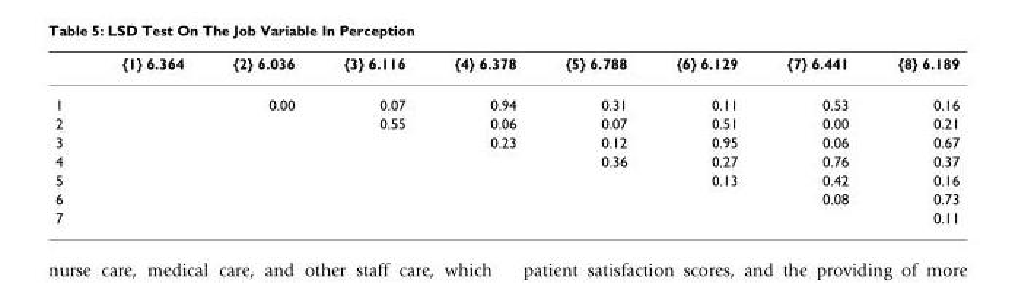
<table><thead><tr><td></td><td>{1} 6.364</td><td>{2} 6.036</td><td>{3} 6.116</td><td>{4} 6.378</td><td>{5} 6.788</td><td>{6} 6.129</td><td>{7} 6.441</td><td>{8} 6.189</td></tr></thead><tbody><tr><td>1</td><td></td><td>0.00</td><td>0.07</td><td>0.94</td><td>0.31</td><td>0.11</td><td>0.53</td><td>0.16</td></tr><tr><td>2</td><td></td><td></td><td>0.55</td><td>0.06</td><td>0.07</td><td>0.51</td><td>0.00</td><td>0.21</td></tr><tr><td>3</td><td></td><td></td><td></td><td>0.23</td><td>0.12</td><td>0.95</td><td>0.06</td><td>0.67</td></tr><tr><td>4</td><td></td><td></td><td></td><td></td><td>0.36</td><td>0.27</td><td>0.76</td><td>0.37</td></tr><tr><td>5</td><td></td><td></td><td></td><td></td><td></td><td>0.13</td><td>0.42</td><td>0.16</td></tr><tr><td>6</td><td></td><td></td><td></td><td></td><td></td><td></td><td>0.08</td><td>0.73</td></tr><tr><td>7</td><td></td><td></td><td></td><td></td><td></td><td></td><td></td><td>0.11</td></tr></tbody></table>